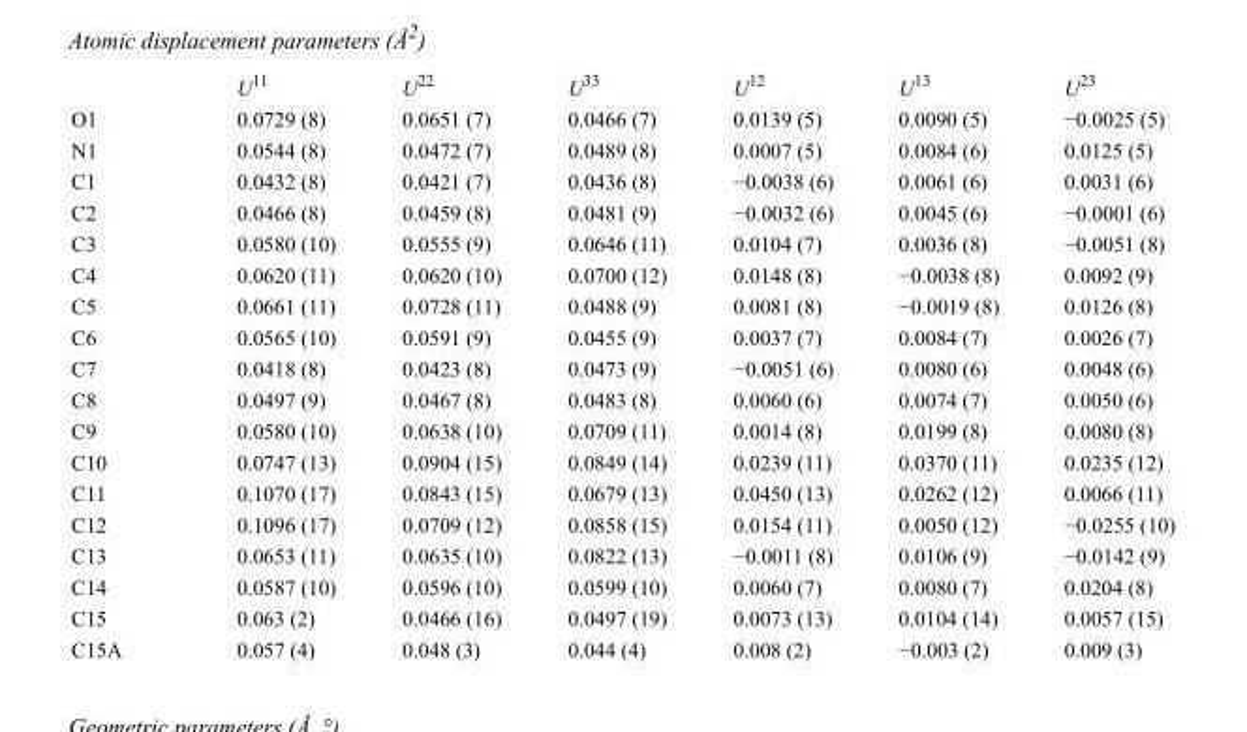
<table><thead><tr><td></td><td>U<sup>11</sup></td><td>U<sup>22</sup></td><td>U<sup>33</sup></td><td>U<sup>12</sup></td><td>U<sup>13</sup></td><td>U<sup>23</sup></td></tr></thead><tbody><tr><td>O1</td><td>0.0729 (8)</td><td>0.0651 (7)</td><td>0.0466 (7)</td><td>0.0139 (5)</td><td>0.0090 (5)</td><td>−0.0025 (5)</td></tr><tr><td>N1</td><td>0.0544 (8)</td><td>0.0472 (7)</td><td>0.0489 (8)</td><td>0.0007 (5)</td><td>0.0084 (6)</td><td>0.0125 (5)</td></tr><tr><td>C1</td><td>0.0432 (8)</td><td>0.0421 (7)</td><td>0.0436 (8)</td><td>−0.0038 (6)</td><td>0.0061 (6)</td><td>0.0031 (6)</td></tr><tr><td>C2</td><td>0.0466 (8)</td><td>0.0459 (8)</td><td>0.0481 (9)</td><td>−0.0032 (6)</td><td>0.0045 (6)</td><td>−0.0001 (6)</td></tr><tr><td>C3</td><td>0.0580 (10)</td><td>0.0555 (9)</td><td>0.0646 (11)</td><td>0.0104 (7)</td><td>0.0036 (8)</td><td>−0.0051 (8)</td></tr><tr><td>C4</td><td>0.0620 (11)</td><td>0.0620 (10)</td><td>0.0700 (12)</td><td>0.0148 (8)</td><td>−0.0038 (8)</td><td>0.0092 (9)</td></tr><tr><td>C5</td><td>0.0661 (11)</td><td>0.0728 (11)</td><td>0.0488 (9)</td><td>0.0081 (8)</td><td>−0.0019 (8)</td><td>0.0126 (8)</td></tr><tr><td>C6</td><td>0.0565 (10)</td><td>0.0591 (9)</td><td>0.0455 (9)</td><td>0.0037 (7)</td><td>0.0084 (7)</td><td>0.0026 (7)</td></tr><tr><td>C7</td><td>0.0418 (8)</td><td>0.0423 (8)</td><td>0.0473 (9)</td><td>−0.0051 (6)</td><td>0.0080 (6)</td><td>0.0048 (6)</td></tr><tr><td>C8</td><td>0.0497 (9)</td><td>0.0467 (8)</td><td>0.0483 (8)</td><td>0.0060 (6)</td><td>0.0074 (7)</td><td>0.0050 (6)</td></tr><tr><td>C9</td><td>0.0580 (10)</td><td>0.0638 (10)</td><td>0.0709 (11)</td><td>0.0014 (8)</td><td>0.0199 (8)</td><td>0.0080 (8)</td></tr><tr><td>C10</td><td>0.0747 (13)</td><td>0.0904 (15)</td><td>0.0849 (14)</td><td>0.0239 (11)</td><td>0.0370 (11)</td><td>0.0235 (12)</td></tr><tr><td>C11</td><td>0.1070 (17)</td><td>0.0843 (15)</td><td>0.0679 (13)</td><td>0.0450 (13)</td><td>0.0262 (12)</td><td>0.0066 (11)</td></tr><tr><td>C12</td><td>0.1096 (17)</td><td>0.0709 (12)</td><td>0.0858 (15)</td><td>0.0154 (11)</td><td>0.0050 (12)</td><td>−0.0255 (10)</td></tr><tr><td>C13</td><td>0.0653 (11)</td><td>0.0635 (10)</td><td>0.0822 (13)</td><td>−0.0011 (8)</td><td>0.0106 (9)</td><td>−0.0142 (9)</td></tr><tr><td>C14</td><td>0.0587 (10)</td><td>0.0596 (10)</td><td>0.0599 (10)</td><td>0.0060 (7)</td><td>0.0080 (7)</td><td>0.0204 (8)</td></tr><tr><td>C15</td><td>0.063 (2)</td><td>0.0466 (16)</td><td>0.0497 (19)</td><td>0.0073 (13)</td><td>0.0104 (14)</td><td>0.0057 (15)</td></tr><tr><td>C15A</td><td>0.057 (4)</td><td>0.048 (3)</td><td>0.044 (4)</td><td>0.008 (2)</td><td>−0.003 (2)</td><td>0.009 (3)</td></tr></tbody></table>